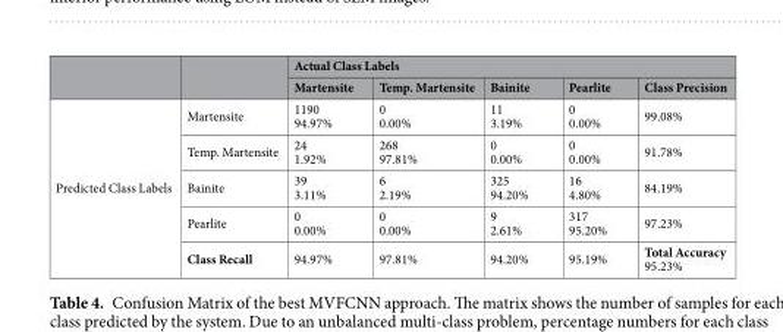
<table><thead><tr><td rowspan="2"></td><td rowspan="2"></td><td colspan="5">Actual Class Labels</td></tr><tr><td>Martensite</td><td>Temp. Martensite</td><td>Bainite</td><td>Pearlite</td><td>Class Precision</td></tr></thead><tbody><tr><td rowspan="5">Predicted Class Labels</td><td>Martensite</td><td>1190 94.97%</td><td>0 0.00%</td><td>11 3.19%</td><td>0 0.00%</td><td>99.08%</td></tr><tr><td>Temp. Martensite</td><td>24 1.92%</td><td>268 97.81%</td><td>0 0.00%</td><td>0 0.00%</td><td>91.78%</td></tr><tr><td>Bainite</td><td>39 3.11%</td><td>6 2.19%</td><td>325 94.20%</td><td>16 4.80%</td><td>84.19%</td></tr><tr><td>Pearlite</td><td>0 0.00%</td><td>0 0.00%</td><td>9 2.61%</td><td>317 95.20%</td><td>97.23%</td></tr><tr><td>Class Recall</td><td>94.97%</td><td>97.81%</td><td>94.20%</td><td>95.19%</td><td>Total Accuracy 95.23%</td></tr></tbody></table>